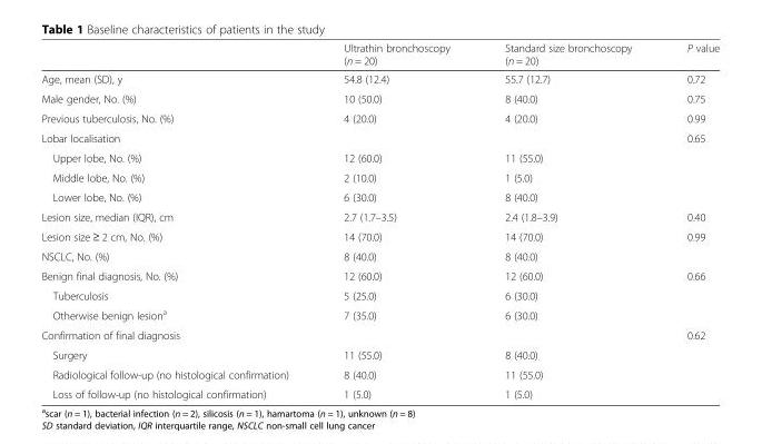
<table><thead><tr><td></td><td>Ultrathin bronchoscopy (n = 20)</td><td>Standard size bronchoscopy (n = 20)</td><td>P value</td></tr></thead><tbody><tr><td>Age, mean (SD), y</td><td>54.8 (12.4)</td><td>55.7 (12.7)</td><td>0.72</td></tr><tr><td>Male gender, No. (%)</td><td>10 (50.0)</td><td>8 (40.0)</td><td>0.75</td></tr><tr><td>Previous tuberculosis, No. (%)</td><td>4 (20.0)</td><td>4 (20.0)</td><td>0.99</td></tr><tr><td>Lobar localisation</td><td></td><td></td><td>0.65</td></tr><tr><td>Upper lobe, No. (%)</td><td>12 (60.0)</td><td>11 (55.0)</td><td></td></tr><tr><td>Middle lobe, No. (%)</td><td>2 (10.0)</td><td>1 (5.0)</td><td></td></tr><tr><td>Lower lobe, No. (%)</td><td>6 (30.0)</td><td>8 (40.0)</td><td></td></tr><tr><td>Lesion size, median (IQR), cm</td><td>2.7 (1.7–3.5)</td><td>2.4 (1.8–3.9)</td><td>0.40</td></tr><tr><td>Lesion size ≥ 2 cm, No. (%)</td><td>14 (70.0)</td><td>14 (70.0)</td><td>0.99</td></tr><tr><td>NSCLC, No. (%)</td><td>8 (40.0)</td><td>8 (40.0)</td><td></td></tr><tr><td>Benign final diagnosis, No. (%)</td><td>12 (60.0)</td><td>12 (60.0)</td><td>0.66</td></tr><tr><td>Tuberculosis</td><td>5 (25.0)</td><td>6 (30.0)</td><td></td></tr><tr><td>Otherwise benign lesion<sup>a</sup></td><td>7 (35.0)</td><td>6 (30.0)</td><td></td></tr><tr><td>Confirmation of final diagnosis</td><td></td><td></td><td>0.62</td></tr><tr><td>Surgery</td><td>11 (55.0)</td><td>8 (40.0)</td><td></td></tr><tr><td>Radiological follow-up (no histological confirmation)</td><td>8 (40.0)</td><td>11 (55.0)</td><td></td></tr><tr><td>Loss of follow-up (no histological confirmation)</td><td>1 (5.0)</td><td>1 (5.0)</td><td></td></tr></tbody></table>